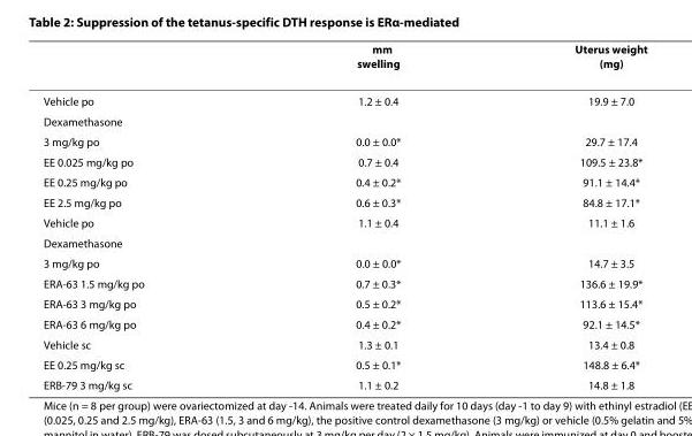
<table><thead><tr><td></td><td>mm swelling</td><td>Uterus weight (mg)</td></tr></thead><tbody><tr><td>Vehicle po</td><td>1.2 ± 0.4</td><td>19.9 ± 7.0</td></tr><tr><td colspan="3">Dexamethasone</td></tr><tr><td>3 mg/kg po</td><td>0.0 ± 0.0*</td><td>29.7 ± 17.4</td></tr><tr><td>EE 0.025 mg/kg po</td><td>0.7 ± 0.4</td><td>109.5 ± 23.8*</td></tr><tr><td>EE 0.25 mg/kg po</td><td>0.4 ± 0.2*</td><td>91.1 ± 14.4*</td></tr><tr><td>EE 2.5 mg/kg po</td><td>0.6 ± 0.3*</td><td>84.8 ± 17.1*</td></tr><tr><td>Vehicle po</td><td>1.1 ± 0.4</td><td>11.1 ± 1.6</td></tr><tr><td colspan="3">Dexamethasone</td></tr><tr><td>3 mg/kg po</td><td>0.0 ± 0.0*</td><td>14.7 ± 3.5</td></tr><tr><td>ERA-63 1.5 mg/kg po</td><td>0.7 ± 0.3*</td><td>136.6 ± 19.9*</td></tr><tr><td>ERA-63 3 mg/kg po</td><td>0.5 ± 0.2*</td><td>113.6 ± 15.4*</td></tr><tr><td>ERA-63 6 mg/kg po</td><td>0.4 ± 0.2*</td><td>92.1 ± 14.5*</td></tr><tr><td>Vehicle sc</td><td>1.3 ± 0.1</td><td>13.4 ± 0.8</td></tr><tr><td>EE 0.25 mg/kg sc</td><td>0.5 ± 0.1*</td><td>148.8 ± 6.4*</td></tr><tr><td>ERB-79 3 mg/kg sc</td><td>1.1 ± 0.2</td><td>14.8 ± 1.8</td></tr></tbody></table>